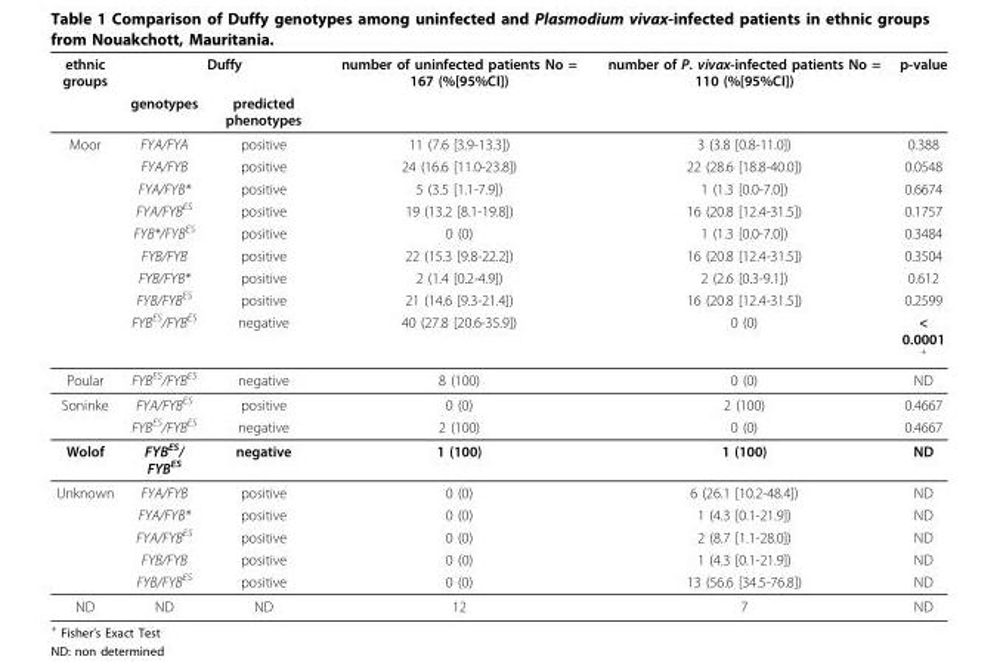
<table><thead><tr><td rowspan="2">ethnic groups</td><td colspan="2">Duffy</td><td rowspan="2">number of uninfected patients No = 167 (%[95%CI])</td><td rowspan="2">number of P. vivax-infected patients No = 110 (%[95%CI])</td><td rowspan="2">p-value</td></tr><tr><td>genotypes</td><td>predicted phenotypes</td></tr></thead><tbody><tr><td rowspan="9">Moor</td><td>FYA/FYA</td><td>positive</td><td>11 (7.6 [3.9-13.3])</td><td>3 (3.8 [0.8-11.0])</td><td>0.388</td></tr><tr><td>FYA/FYB</td><td>positive</td><td>24 (16.6 [11.0-23.8])</td><td>22 (28.6 [18.8-40.0])</td><td>0.0548</td></tr><tr><td>FYA/FYB*</td><td>positive</td><td>5 (3.5 [1.1-7.9])</td><td>1 (1.3 [0.0-7.0])</td><td>0.6674</td></tr><tr><td>FYA/FYB<sup>ES</sup></td><td>positive</td><td>19 (13.2 [8.1-19.8])</td><td>16 (20.8 [12.4-31.5])</td><td>0.1757</td></tr><tr><td>FYB*/FYB<sup>ES</sup></td><td>positive</td><td>0 (0)</td><td>1 (1.3 [0.0-7.0])</td><td>0.3484</td></tr><tr><td>FYB/FYB</td><td>positive</td><td>22 (15.3 [9.8-22.2])</td><td>16 (20.8 [12.4-31.5])</td><td>0.3504</td></tr><tr><td>FYB/FYB*</td><td>positive</td><td>2 (1.4 [0.2-4.9])</td><td>2 (2.6 [0.3-9.1])</td><td>0.612</td></tr><tr><td>FYB/FYB<sup>ES</sup></td><td>positive</td><td>21 (14.6 [9.3-21.4])</td><td>16 (20.8 [12.4-31.5])</td><td>0.2599</td></tr><tr><td>FYB<sup>ES</sup>/FYB<sup>ES</sup></td><td>negative</td><td>40 (27.8 [20.6-35.9])</td><td>0 (0)</td><td>&lt; 0.0001 <sup>+</sup></td></tr><tr><td>Poular</td><td>FYB<sup>ES</sup>/FYB<sup>ES</sup></td><td>negative</td><td>8 (100)</td><td>0 (0)</td><td>ND</td></tr><tr><td rowspan="2">Soninke</td><td>FYA/FYB<sup>ES</sup></td><td>positive</td><td>0 (0)</td><td>2 (100)</td><td>0.4667</td></tr><tr><td>FYB<sup>ES</sup>/FYB<sup>ES</sup></td><td>negative</td><td>2 (100)</td><td>0 (0)</td><td>0.4667</td></tr><tr><td>Wolof</td><td>FYB<sup>ES</sup>/ FYB<sup>ES</sup></td><td>negative</td><td>1 (100)</td><td>1 (100)</td><td>ND</td></tr><tr><td rowspan="5">Unknown</td><td>FYA/FYB</td><td>positive</td><td>0 (0)</td><td>6 (26.1 [10.2-48.4])</td><td>ND</td></tr><tr><td>FYA/FYB*</td><td>positive</td><td>0 (0)</td><td>1 (4.3 [0.1-21.9])</td><td>ND</td></tr><tr><td>FYA/FYB<sup>ES</sup></td><td>positive</td><td>0 (0)</td><td>2 (8.7 [1.1-28.0])</td><td>ND</td></tr><tr><td>FYB/FYB</td><td>positive</td><td>0 (0)</td><td>1 (4.3 [0.1-21.9])</td><td>ND</td></tr><tr><td>FYB/FYB<sup>ES</sup></td><td>positive</td><td>0 (0)</td><td>13 (56.6 [34.5-76.8])</td><td>ND</td></tr><tr><td>ND</td><td>ND</td><td>ND</td><td>12</td><td>7</td><td>ND</td></tr></tbody></table>